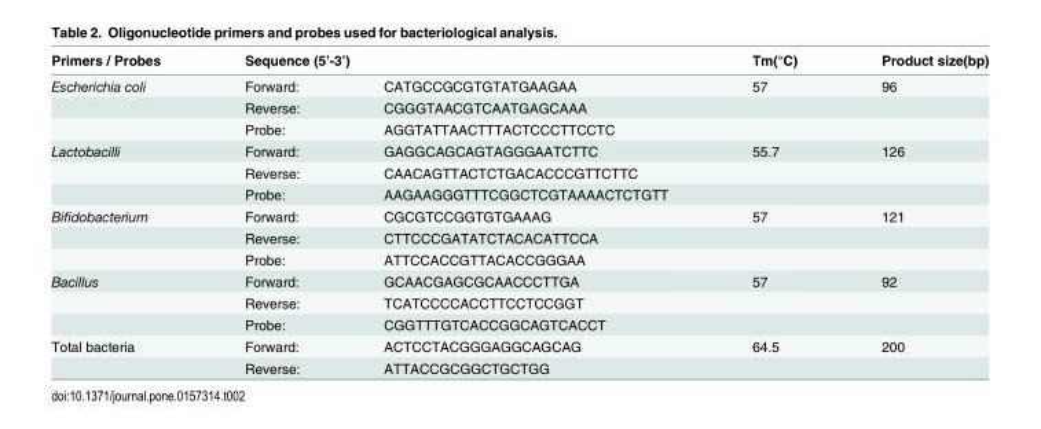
<table><thead><tr><td rowspan="2">Primers / Probes Escherichia coli</td><td colspan="2">Sequence (5’-3’)</td><td rowspan="2">Tm(°C) 57</td><td rowspan="2">Product size(bp) 96</td></tr><tr><td>Forward:</td><td>CATGCCGCGTGTATGAAGAA</td></tr></thead><tbody><tr><td></td><td>Reverse:</td><td>CGGGTAACGTCAATGAGCAAA</td><td></td><td></td></tr><tr><td></td><td>Probe:</td><td>AGGTATTAACTTTACTCCCTTCCTC</td><td></td><td></td></tr><tr><td rowspan="3">Lactobacilli</td><td>Forward:</td><td>GAGGCAGCAGTAGGGAATCTTC</td><td>55.7</td><td>126</td></tr><tr><td>Reverse:</td><td>CAACAGTTACTCTGACACCCGTTCTTC</td><td></td><td></td></tr><tr><td>Probe:</td><td>AAGAAGGGTTTCGGCTCGTAAAACTCTGTT</td><td></td><td></td></tr><tr><td rowspan="3">Bifidobacterium</td><td>Forward:</td><td>CGCGTCCGGTGTGAAAG</td><td>57</td><td>121</td></tr><tr><td>Reverse:</td><td>CTTCCCGATATCTACACATTCCA</td><td></td><td></td></tr><tr><td>Probe:</td><td>ATTCCACCGTTACACCGGGAA</td><td></td><td></td></tr><tr><td rowspan="3">Bacillus</td><td>Forward:</td><td>GCAACGAGCGCAACCCTTGA</td><td>57</td><td>92</td></tr><tr><td>Reverse:</td><td>TCATCCCCACCTTCCTCCGGT</td><td></td><td></td></tr><tr><td>Probe:</td><td>CGGTTTGTCACCGGCAGTCACCT</td><td></td><td></td></tr><tr><td rowspan="2">Total bacteria</td><td>Forward:</td><td>ACTCCTACGGGAGGCAGCAG</td><td>64.5</td><td>200</td></tr><tr><td>Reverse:</td><td>ATTACCGCGGCTGCTGG</td><td></td><td></td></tr></tbody></table>